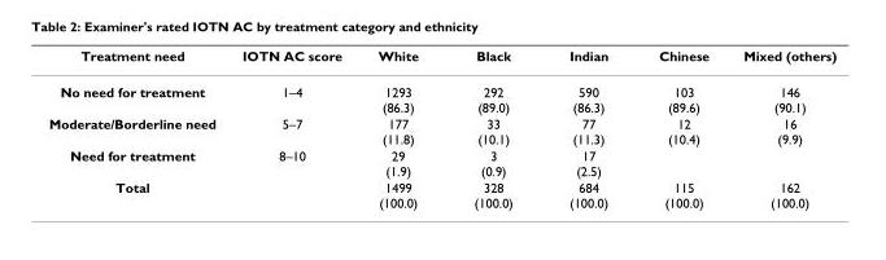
<table><thead><tr><td>Treatment need</td><td>IOTN AC score</td><td>White</td><td>Black</td><td>Indian</td><td>Chinese</td><td>Mixed (others)</td></tr></thead><tbody><tr><td>No need for treatment</td><td>1–4</td><td>1293 (86.3)</td><td>292 (89.0)</td><td>590 (86.3)</td><td>103 (89.6)</td><td>146 (90.1)</td></tr><tr><td>Moderate/Borderline need</td><td>5–7</td><td>177 (11.8)</td><td>33 (10.1)</td><td>77 (11.3)</td><td>12 (10.4)</td><td>16 (9.9)</td></tr><tr><td>Need for treatment</td><td>8–10</td><td>29 (1.9)</td><td>3 (0.9)</td><td>17 (2.5)</td><td></td><td></td></tr><tr><td>Total</td><td></td><td>1499 (100.0)</td><td>328 (100.0)</td><td>684 (100.0)</td><td>115 (100.0)</td><td>162 (100.0)</td></tr></tbody></table>